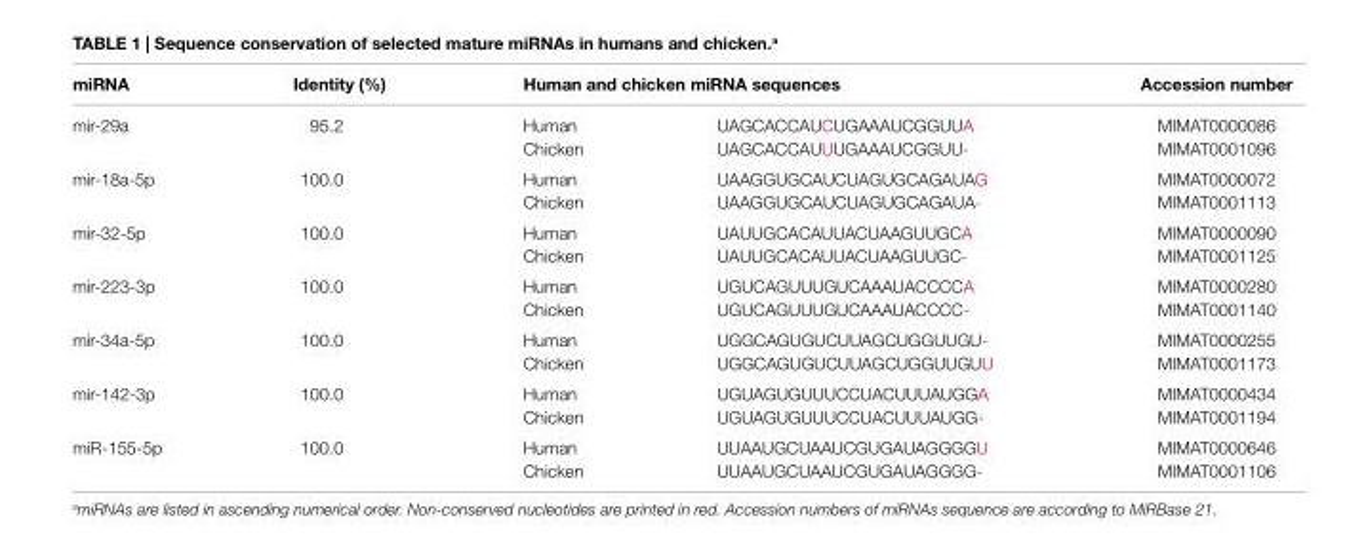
<table><thead><tr><td rowspan="2">miRNA mir-29a</td><td rowspan="2">identity (%) 95.2</td><td colspan="2">Human and chicken miRNA sequences</td><td rowspan="2">Accession number MIMAT0000086</td></tr><tr><td>Human</td><td>UAGCACCAUCUGAAAUCGGUUA</td></tr></thead><tbody><tr><td></td><td></td><td>Chicken</td><td>UAGCACCAUUUGAAAUCGGUU-</td><td>MIMAT0001096</td></tr><tr><td rowspan="2">mir-18a-5p</td><td>100.0</td><td>Human</td><td>UAAGGUGCAUCUAGUGCAGAUAG</td><td>MIMAT0000072</td></tr><tr><td></td><td>Chicken</td><td>UAAGGUGCAUCUAGUGCAGAUA-</td><td>MIMAT0001113</td></tr><tr><td rowspan="2">mir-32-5p</td><td>100.0</td><td>Human</td><td>UAUUGCACAUUACUAAGUUGCA</td><td>MIMAT0000090</td></tr><tr><td></td><td>Chicken</td><td>UAUUGCACAUUACUAAGUUGC-</td><td>MIMAT0001125</td></tr><tr><td rowspan="2">mir-223-3p</td><td>100.0</td><td>Human</td><td>UGUCAGUUUGUCAAAUACCCCA</td><td>MIMAT0000280</td></tr><tr><td></td><td>Chicken</td><td>UGUCAGUUUGUCAAAUACCCC-</td><td>MIMAT0001140</td></tr><tr><td rowspan="2">mir-34a-5p</td><td>100.0</td><td>Human</td><td>UGGCAGUGUCUUAGCUGGUUGU-</td><td>MIMAT0000255</td></tr><tr><td></td><td>Chicken</td><td>UGGCAGUGUCUUAGCUGGUUGUU</td><td>MIMAT0001173</td></tr><tr><td rowspan="2">mir-142-3p</td><td>100.0</td><td>Human</td><td>UGUAGUGUUUCCUACUUUAUGGA</td><td>MIMAT0000434</td></tr><tr><td></td><td>Chicken</td><td>UGUAGUGUUUCCUACUUUAUGG-</td><td>MIMAT0001194</td></tr><tr><td rowspan="2">miR-155-5p</td><td>100.0</td><td>Human</td><td>UUAAUGCUAAUCGUGAUAGGGGU</td><td>MIMAT0000646</td></tr><tr><td></td><td>Chicken</td><td>UUAAUGCUAAUCGUGAUAGGGG-</td><td>MIMAT0001106</td></tr></tbody></table>